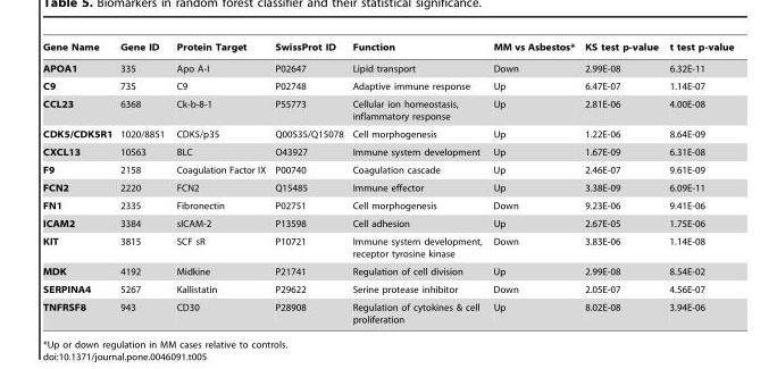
<table><thead><tr><td>Gene Name</td><td>Gene ID</td><td>Protein Target</td><td>SwissProt ID</td><td>Function</td><td>MM vs Asbestos*</td><td>KS test p-value</td><td>t test p-value</td></tr></thead><tbody><tr><td>APOA1</td><td>335</td><td>Apo A-I</td><td>P02647</td><td>Lipid transport</td><td>Down</td><td>2.99E-08</td><td>6.32E-11</td></tr><tr><td>C9</td><td>735</td><td>C9</td><td>P02748</td><td>Adaptive immune response</td><td>Up</td><td>6.47E-07</td><td>1.14E-07</td></tr><tr><td>CCL23</td><td>6368</td><td>Ck-b-8-1</td><td>P55773</td><td>Cellular ion homeostasis, inflammatory response</td><td>Up</td><td>2.81E-06</td><td>4.00E-08</td></tr><tr><td>CDK5/CDK5R1</td><td>1020/8851</td><td>CDK5/p35</td><td>Q00535/Q15078</td><td>Cell morphogenesis</td><td>Up</td><td>1.22E-06</td><td>8.64E-09</td></tr><tr><td>CXCL13</td><td>10563</td><td>BLC</td><td>O43927</td><td>Immune system development</td><td>Up</td><td>1.67E-09</td><td>6.31E-08</td></tr><tr><td>F9</td><td>2158</td><td>Coagulation Factor IX</td><td>P00740</td><td>Coagulation cascade</td><td>Up</td><td>2.46E-07</td><td>9.61E-09</td></tr><tr><td>FCN2</td><td>2220</td><td>FCN2</td><td>Q15485</td><td>Immune effector</td><td>Up</td><td>3.38E-09</td><td>6.09E-11</td></tr><tr><td>FN1</td><td>2335</td><td>Fibronectin</td><td>P02751</td><td>Cell morphogenesis</td><td>Down</td><td>9.23E-06</td><td>9.41E-06</td></tr><tr><td>ICAM2</td><td>3384</td><td>sICAM-2</td><td>P13598</td><td>Cell adhesion</td><td>Up</td><td>2.67E-05</td><td>1.75E-06</td></tr><tr><td>KIT</td><td>3815</td><td>SCF sR</td><td>P10721</td><td>Immune system development, receptor tyrosine kinase</td><td>Down</td><td>3.83E-06</td><td>1.14E-08</td></tr><tr><td>MDK</td><td>4192</td><td>Midkine</td><td>P21741</td><td>Regulation of cell division</td><td>Up</td><td>2.99E-08</td><td>8.54E-02</td></tr><tr><td>SERPINA4</td><td>5267</td><td>Kallistatin</td><td>P29622</td><td>Serine protease inhibitor</td><td>Down</td><td>2.05E-07</td><td>4.56E-07</td></tr><tr><td>TNFRSF8</td><td>943</td><td>CD30</td><td>P28908</td><td>Regulation of cytokines &amp; cell proliferation</td><td>Up</td><td>8.02E-08</td><td>3.94E-06</td></tr></tbody></table>